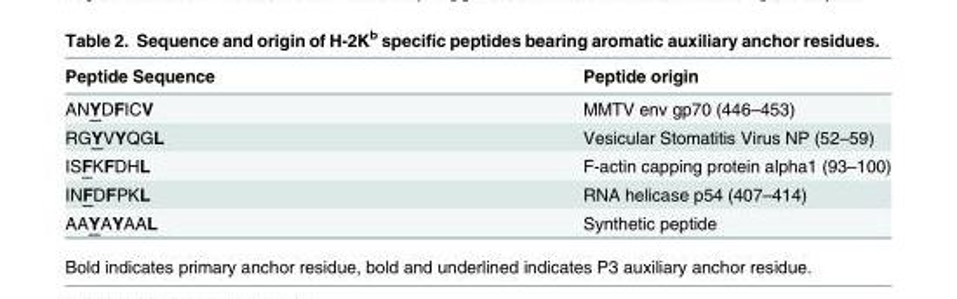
<table><thead><tr><td>Peptide Sequence</td><td>Peptide origin</td></tr></thead><tbody><tr><td>ANYDFICV</td><td>MMTV env gp70 (446–453)</td></tr><tr><td>RGYVYQGL</td><td>Vesicular Stomatitis Virus NP (52–59)</td></tr><tr><td>ISFKFDHL</td><td>F-actin capping protein alpha1 (93–100)</td></tr><tr><td>INFDFPKL</td><td>RNA helicase p54 (407–414)</td></tr><tr><td>AAYAYAAL</td><td>Synthetic peptide</td></tr></tbody></table>